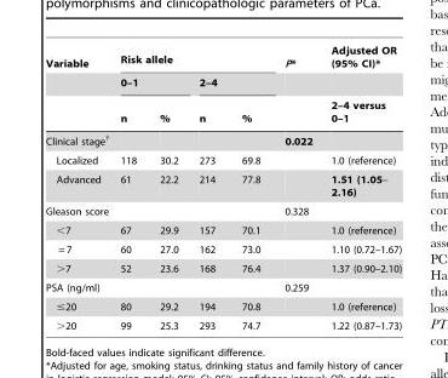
<table><thead><tr><td rowspan="3">Variable</td><td colspan="4">Risk allele</td><td rowspan="3">P*</td><td rowspan="3">Adjusted OR (95% CI)* 2–4 versus 0–1</td></tr><tr><td colspan="2">0–1</td><td colspan="2">2–4</td></tr><tr><td>n</td><td>%</td><td>n</td><td>%</td></tr></thead><tbody><tr><td>Clinical stage†</td><td></td><td></td><td></td><td></td><td>0.022</td><td></td></tr><tr><td>Localized</td><td>118</td><td>30.2</td><td>273</td><td>69.8</td><td></td><td>1.0 (reference)</td></tr><tr><td>Advanced</td><td>61</td><td>22.2</td><td>214</td><td>77.8</td><td></td><td>1.51 (1.05– 2.16)</td></tr><tr><td>Gleason score</td><td></td><td></td><td></td><td></td><td>0.328</td><td></td></tr><tr><td>&lt;7</td><td>67</td><td>29.9</td><td>157</td><td>70.1</td><td></td><td>1.0 (reference)</td></tr><tr><td>= 7</td><td>60</td><td>27.0</td><td>162</td><td>73.0</td><td></td><td>1.10 (0.72–1.67)</td></tr><tr><td>&gt;7</td><td>52</td><td>23.6</td><td>168</td><td>76.4</td><td></td><td>1.37 (0.90–2.10)</td></tr><tr><td>PSA (ng/ml)</td><td></td><td></td><td></td><td></td><td>0.259</td><td></td></tr><tr><td>≤20</td><td>80</td><td>29.2</td><td>194</td><td>70.8</td><td></td><td>1.0 (reference)</td></tr><tr><td>&gt;20</td><td>99</td><td>25.3</td><td>293</td><td>74.7</td><td></td><td>1.22 (0.87–1.73)</td></tr></tbody></table>